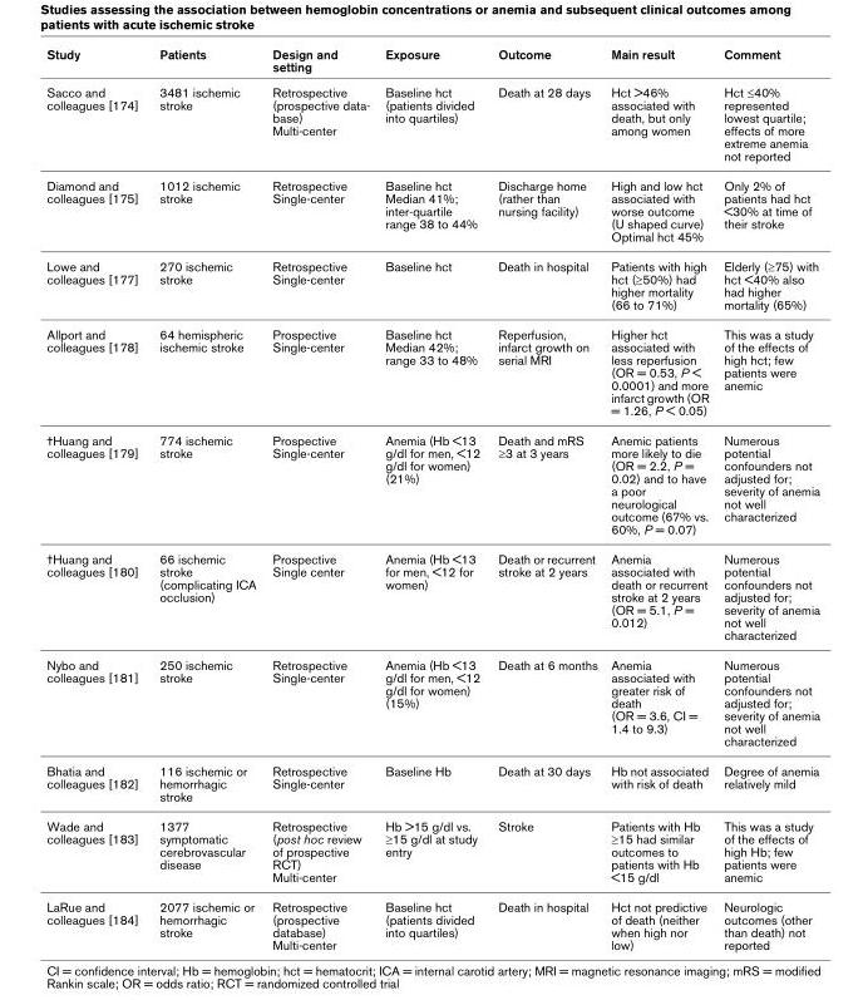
<table><thead><tr><td>Study</td><td>Patients</td><td>Design and setting</td><td>Exposure</td><td>Outcome</td><td>Main result</td><td>Comment</td></tr></thead><tbody><tr><td>Sacco and colleagues [174]</td><td>3481 ischemic stroke</td><td>Retrospective (prospective data- base) Multi-center</td><td>Baseline hct (patients divided into quartiles)</td><td>Death at 28 days</td><td>Hct &gt;46% associated with death, but only among women</td><td>Hct ≤40% represented lowest quartile; effects of more extreme anemia not reported</td></tr><tr><td>Diamond and colleagues [175]</td><td>1012 ischemic stroke</td><td>Retrospective Single-center</td><td>Baseline hct Median 41%; inter-quartile range 38 to 44%</td><td>Discharge home (rather than nursing facility)</td><td>High and low hct associated with worse outcome (U shaped curve) Optimal hct 45%</td><td>Only 2% of patients had hct &lt;30% at time of their stroke</td></tr><tr><td>Lowe and colleagues [177]</td><td>270 ischemic stroke</td><td>Retrospective Single-center</td><td>Baseline hct</td><td>Death in hospital</td><td>Patients with high hct (≥50%) had higher mortality (66 to 71%)</td><td>Elderly (≥75) with hct &lt;40% also had higher mortality (65%)</td></tr><tr><td>Allport and colleagues [178]</td><td>64 hemispheric ischemic stroke</td><td>Prospective Single-center</td><td>Baseline hct Median 42%; range 33 to 48%</td><td>Reperfusion, infarct growth on serial MRI</td><td>Higher hct associated with less reperfusion (OR = 0.53, P &lt; 0.0001) and more infarct growth (OR = 1.26, P &lt; 0.05)</td><td>This was a study of the effects of high hct; few patients were anemic</td></tr><tr><td>†Huang and colleagues [179]</td><td>774 ischemic stroke</td><td>Prospective Single-center</td><td>Anemia (Hb &lt;13 g/dl for men, &lt;12 g/dl for women) (21%)</td><td>Death and mRS ≥3 at 3 years</td><td>Anemic patients more likely to die (OR = 2.2, P = 0.02) and to have a poor neurological outcome (67% vs. 60%, P = 0.07)</td><td>Numerous potential confounders not adjusted for; severity of anemia not well characterized</td></tr><tr><td>†Huang and colleagues [180]</td><td>66 ischemic stroke (complicating ICA occlusion)</td><td>Prospective Single center</td><td>Anemia (Hb &lt;13 for men, &lt;12 for women)</td><td>Death or recurrent stroke at 2 years</td><td>Anemia associated with death or recurrent stroke at 2 years (OR = 5.1, P = 0.012)</td><td>Numerous potential confounders not adjusted for; severity of anemia not well characterized</td></tr><tr><td>Nybo and colleagues [181]</td><td>250 ischemic stroke</td><td>Retrospective Single-center</td><td>Anemia (Hb &lt;13 g/dl for men, &lt;12 g/dl for women) (15%)</td><td>Death at 6 months</td><td>Anemia associated with greater risk of death (OR = 3.6, CI = 1.4 to 9.3)</td><td>Numerous potential confounders not adjusted for; severity of anemia not well characterized</td></tr><tr><td>Bhatia and colleagues [182]</td><td>116 ischemic or hemorrhagic stroke</td><td>Retrospective Single-center</td><td>Baseline Hb</td><td>Death at 30 days</td><td>Hb not associated with risk of death</td><td>Degree of anemia relatively mild</td></tr><tr><td>Wade and colleagues [183]</td><td>1377 symptomatic cerebrovascular disease</td><td>Retrospective (post hoc review of prospective RCT) Multi-center</td><td>Hb &gt;15 g/dl vs. ≥15 g/dl at study entry</td><td>Stroke</td><td>Patients with Hb ≥15 had similar outcomes to patients with Hb &lt;15 g/dl</td><td>This was a study of the effects of high Hb; few patients were anemic</td></tr><tr><td>LaRue and colleagues [184]</td><td>2077 ischemic or hemorrhagic stroke</td><td>Retrospective (prospective database) Multi-center</td><td>Baseline hct (patients divided into quartiles)</td><td>Death in hospital</td><td>Hct not predictive of death (neither when high nor low)</td><td>Neurologic outcomes (other than death) not reported</td></tr></tbody></table>